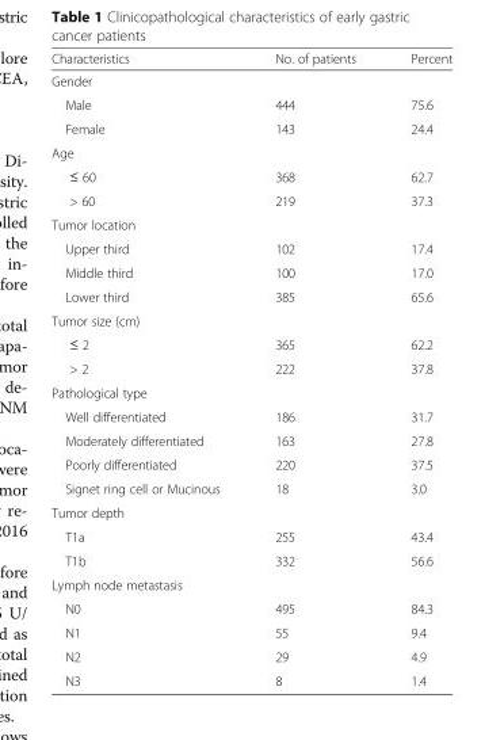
<table><thead><tr><td>Characteristics</td><td>No. of patients</td><td>Percent</td></tr></thead><tbody><tr><td colspan="3">Gender</td></tr><tr><td>Male</td><td>444</td><td>75.6</td></tr><tr><td>Female</td><td>143</td><td>24.4</td></tr><tr><td colspan="3">Age</td></tr><tr><td>≤ 60</td><td>368</td><td>62.7</td></tr><tr><td>&gt; 60</td><td>219</td><td>37.3</td></tr><tr><td colspan="3">Tumor location</td></tr><tr><td>Upper third</td><td>102</td><td>17.4</td></tr><tr><td>Middle third</td><td>100</td><td>17.0</td></tr><tr><td>Lower third</td><td>385</td><td>65.6</td></tr><tr><td colspan="3">Tumor size (cm)</td></tr><tr><td>≤ 2</td><td>365</td><td>62.2</td></tr><tr><td>&gt; 2</td><td>222</td><td>37.8</td></tr><tr><td colspan="3">Pathological type</td></tr><tr><td>Well differentiated</td><td>186</td><td>31.7</td></tr><tr><td>Moderately differentiated</td><td>163</td><td>27.8</td></tr><tr><td>Poorly differentiated</td><td>220</td><td>37.5</td></tr><tr><td>Signet ring cell or Mucinous</td><td>18</td><td>3.0</td></tr><tr><td colspan="3">Tumor depth</td></tr><tr><td>T1a</td><td>255</td><td>43.4</td></tr><tr><td>T1b</td><td>332</td><td>56.6</td></tr><tr><td colspan="3">Lymph node metastasis</td></tr><tr><td>N0</td><td>495</td><td>84.3</td></tr><tr><td>N1</td><td>55</td><td>9.4</td></tr><tr><td>N2</td><td>29</td><td>4.9</td></tr><tr><td>N3</td><td>8</td><td>1.4</td></tr></tbody></table>